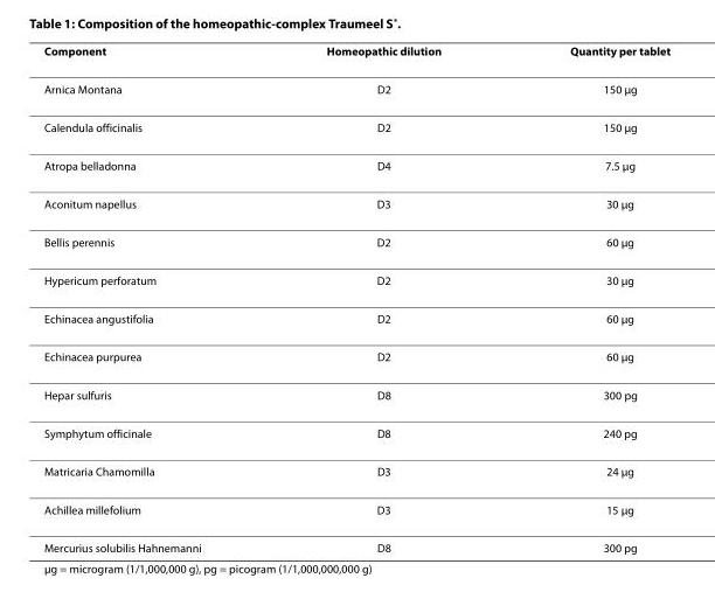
<table><thead><tr><td>Component</td><td>Homeopathic dilution</td><td>Quantity per tablet</td></tr></thead><tbody><tr><td>Arnica Montana</td><td>D2</td><td>150 μg</td></tr><tr><td>Calendula officinalis</td><td>D2</td><td>150 μg</td></tr><tr><td>Atropa belladonna</td><td>D4</td><td>7.5 μg</td></tr><tr><td>Aconitum napellus</td><td>D3</td><td>30 μg</td></tr><tr><td>Bellis perennis</td><td>D2</td><td>60 μg</td></tr><tr><td>Hypericum perforatum</td><td>D2</td><td>30 μg</td></tr><tr><td>Echinacea angustifolia</td><td>D2</td><td>60 μg</td></tr><tr><td>Echinacea purpurea</td><td>D2</td><td>60 μg</td></tr><tr><td>Hepar sulfuris</td><td>D8</td><td>300 pg</td></tr><tr><td>Symphytum officinale</td><td>D8</td><td>240 pg</td></tr><tr><td>Matricaria Chamomilla</td><td>D3</td><td>24 μg</td></tr><tr><td>Achillea millefolium</td><td>D3</td><td>15 μg</td></tr><tr><td>Mercurius solubilis Hahnemanni</td><td>D8</td><td>300 pg</td></tr></tbody></table>